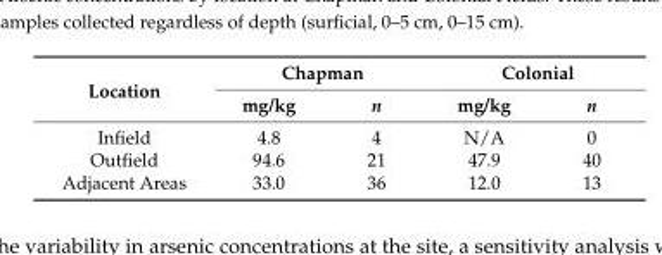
<table><thead><tr><td rowspan="2">Location</td><td colspan="2">Chapman</td><td colspan="2">Colonial</td></tr><tr><td>mg/kg</td><td>n</td><td>mg/kg</td><td>n</td></tr></thead><tbody><tr><td>Infield</td><td>4.8</td><td>4</td><td>N/A</td><td>0</td></tr><tr><td>Outfield</td><td>94.6</td><td>21</td><td>47.9</td><td>40</td></tr><tr><td>Adjacent Areas</td><td>33.0</td><td>36</td><td>12.0</td><td>13</td></tr></tbody></table>